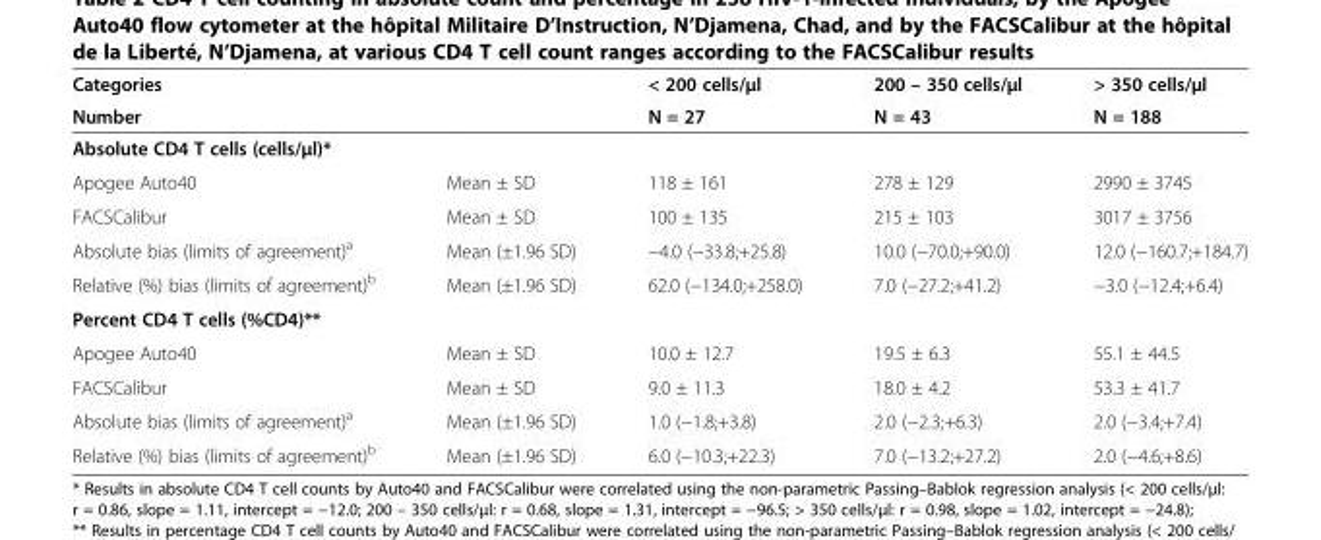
<table><thead><tr><td rowspan="2">Categories Number</td><td rowspan="2"></td><td rowspan="2">&lt; 200 cells/μl N = 27</td><td rowspan="2">200 – 350 cells/μl N = 43</td><td rowspan="2">&gt; 350 cells/μl N = 188</td></tr><tr></tr></thead><tbody><tr><td colspan="5">Absolute CD4 T cells (cells/μl)*</td></tr><tr><td>Apogee Auto40</td><td>Mean ± SD</td><td>118 ± 161</td><td>278 ± 129</td><td>2990 ± 3745</td></tr><tr><td>FACSCalibur</td><td>Mean ± SD</td><td>100 ± 135</td><td>215 ± 103</td><td>3017 ± 3756</td></tr><tr><td>Absolute bias (limits of agreement)<sup>a</sup></td><td>Mean (±1.96 SD)</td><td>−4.0 (−33.8;+25.8)</td><td>10.0 (−70.0;+90.0)</td><td>12.0 (−160.7;+184.7)</td></tr><tr><td>Relative (%) bias (limits of agreement)<sup>b</sup></td><td>Mean (±1.96 SD)</td><td>62.0 (−134.0;+258.0)</td><td>7.0 (−27.2;+41.2)</td><td>−3.0 (−12.4;+6.4)</td></tr><tr><td colspan="5">Percent CD4 T cells (%CD4)**</td></tr><tr><td>Apogee Auto40</td><td>Mean ± SD</td><td>10.0 ± 12.7</td><td>19.5 ± 6.3</td><td>55.1 ± 44.5</td></tr><tr><td>FACSCalibur</td><td>Mean ± SD</td><td>9.0 ± 11.3</td><td>18.0 ± 4.2</td><td>53.3 ± 41.7</td></tr><tr><td>Absolute bias (limits of agreement)<sup>a</sup></td><td>Mean (±1.96 SD)</td><td>1.0 (−1.8;+3.8)</td><td>2.0 (−2.3;+6.3)</td><td>2.0 (−3.4;+7.4)</td></tr><tr><td>Relative (%) bias (limits of agreement)<sup>b</sup></td><td>Mean (±1.96 SD)</td><td>6.0 (−10.3;+22.3)</td><td>7.0 (−13.2;+27.2)</td><td>2.0 (−4.6;+8.6)</td></tr></tbody></table>